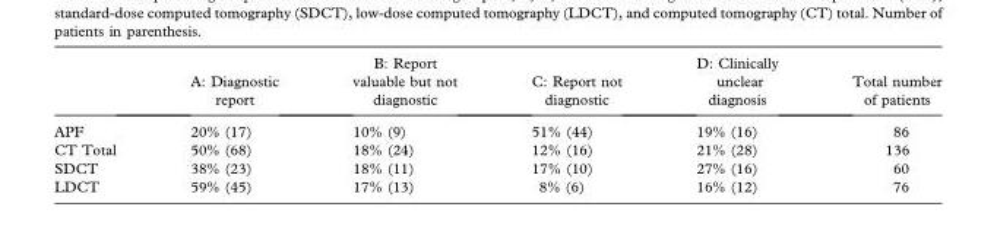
<table><thead><tr><td></td><td>A: Diagnostic report</td><td>B: Report valuable but not diagnostic</td><td>C: Report not diagnostic</td><td>D: Clinically unclear diagnosis</td><td>Total number of patients</td></tr></thead><tbody><tr><td>APF</td><td>20% (17)</td><td>10% (9)</td><td>51% (44)</td><td>19% (16)</td><td>86</td></tr><tr><td>CT Total</td><td>50% (68)</td><td>18% (24)</td><td>12% (16)</td><td>21% (28)</td><td>136</td></tr><tr><td>SDCT</td><td>38% (23)</td><td>18% (11)</td><td>17% (10)</td><td>27% (16)</td><td>60</td></tr><tr><td>LDCT</td><td>59% (45)</td><td>17% (13)</td><td>8% (6)</td><td>16% (12)</td><td>76</td></tr></tbody></table>